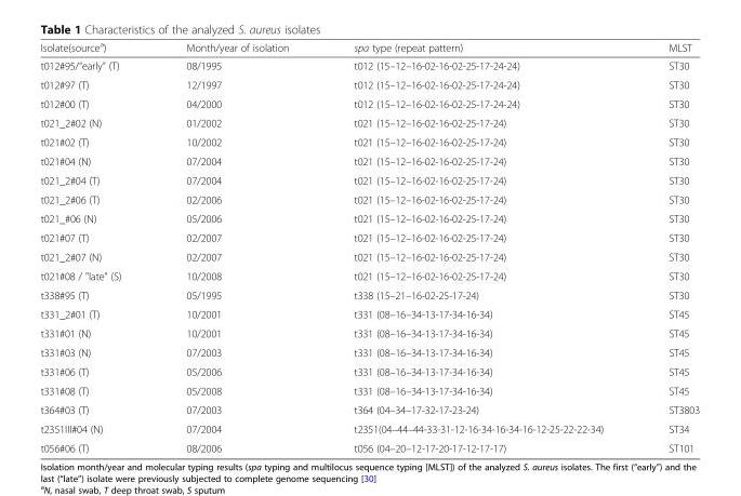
<table><thead><tr><td>Isolate(source<sup>a</sup>)</td><td>Month/year of isolation</td><td>spa type (repeat pattern)</td><td>MLST</td></tr></thead><tbody><tr><td>t012#95/“early” (T)</td><td>08/1995</td><td>t012 (15–12–16-02-16-02-25-17-24-24)</td><td>ST30</td></tr><tr><td>t012#97 (T)</td><td>12/1997</td><td>t012 (15–12–16-02-16-02-25-17-24-24)</td><td>ST30</td></tr><tr><td>t012#00 (T)</td><td>04/2000</td><td>t012 (15–12–16-02-16-02-25-17-24-24)</td><td>ST30</td></tr><tr><td>t021_2#02 (N)</td><td>01/2002</td><td>t021 (15–12–16-02-16-02-25-17-24)</td><td>ST30</td></tr><tr><td>t021#02 (T)</td><td>10/2002</td><td>t021 (15–12–16-02-16-02-25-17-24)</td><td>ST30</td></tr><tr><td>t021#04 (N)</td><td>07/2004</td><td>t021 (15–12–16-02-16-02-25-17-24)</td><td>ST30</td></tr><tr><td>t021_2#04 (T)</td><td>07/2004</td><td>t021 (15–12–16-02-16-02-25-17-24)</td><td>ST30</td></tr><tr><td>t021_2#06 (T)</td><td>02/2006</td><td>t021 (15–12–16-02-16-02-25-17-24)</td><td>ST30</td></tr><tr><td>t021_#06 (N)</td><td>05/2006</td><td>t021 (15–12–16-02-16-02-25-17-24)</td><td>ST30</td></tr><tr><td>t021#07 (T)</td><td>02/2007</td><td>t021 (15–12–16-02-16-02-25-17-24)</td><td>ST30</td></tr><tr><td>t021_2#07 (N)</td><td>02/2007</td><td>t021 (15–12–16-02-16-02-25-17-24)</td><td>ST30</td></tr><tr><td>t021#08 / &quot;late&quot; (S)</td><td>10/2008</td><td>t021 (15–12–16-02-16-02-25-17-24)</td><td>ST30</td></tr><tr><td>t338#95 (T)</td><td>05/1995</td><td>t338 (15–21–16-02-25-17-24)</td><td>ST30</td></tr><tr><td>t331_2#01 (T)</td><td>10/2001</td><td>t331 (08–16–34-13-17-34-16-34)</td><td>ST45</td></tr><tr><td>t331#01 (N)</td><td>10/2001</td><td>t331 (08–16–34-13-17-34-16-34)</td><td>ST45</td></tr><tr><td>t331#03 (N)</td><td>07/2003</td><td>t331 (08–16–34-13-17-34-16-34)</td><td>ST45</td></tr><tr><td>t331#06 (T)</td><td>05/2006</td><td>t331 (08–16–34-13-17-34-16-34)</td><td>ST45</td></tr><tr><td>t331#08 (T)</td><td>05/2008</td><td>t331 (08–16–34-13-17-34-16-34)</td><td>ST45</td></tr><tr><td>t364#03 (T)</td><td>07/2003</td><td>t364 (04–34–17-32-17-23-24)</td><td>ST3803</td></tr><tr><td>t2351III#04 (N)</td><td>07/2004</td><td>t2351(04–44–44-33-31-12-16-34-16-34-16-12-25-22-22-34)</td><td>ST34</td></tr><tr><td>t056#06 (T)</td><td>08/2006</td><td>t056 (04–20–12-17-20-17-12-17-17)</td><td>ST101</td></tr></tbody></table>